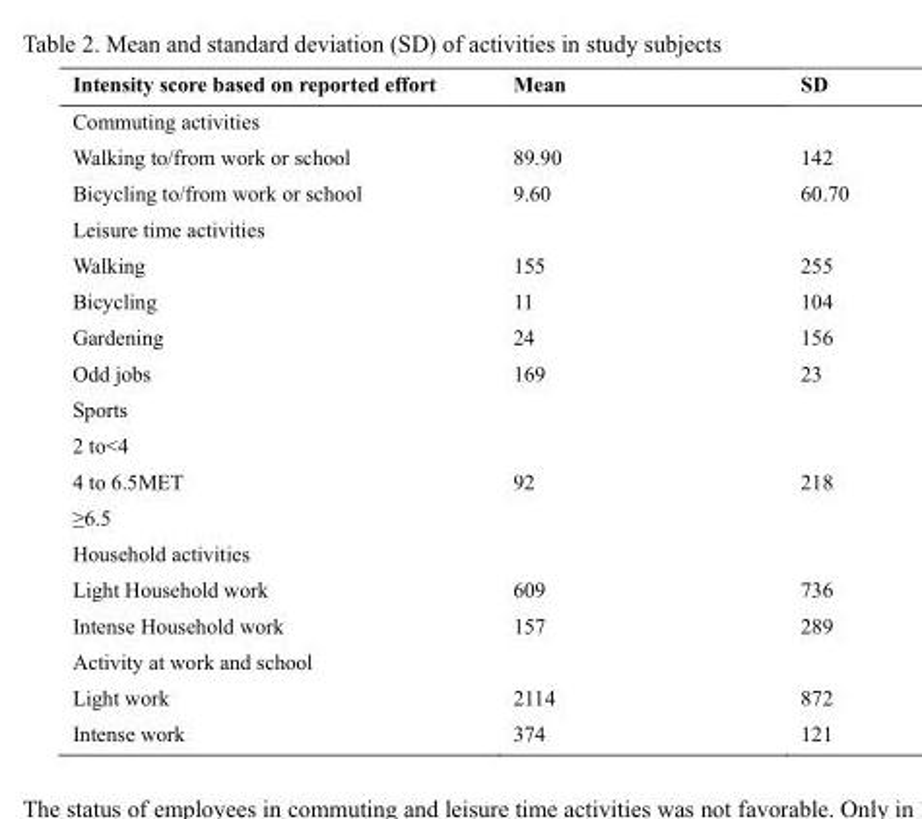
<table><thead><tr><td>Intensity score based on reported effort</td><td>Mean</td><td>SD</td></tr></thead><tbody><tr><td colspan="3">Commuting activities</td></tr><tr><td>Walking to/from work or school</td><td>89.90</td><td>142</td></tr><tr><td>Bicycling to/from work or school</td><td>9.60</td><td>60.70</td></tr><tr><td colspan="3">Leisure time activities</td></tr><tr><td>Walking</td><td>155</td><td>255</td></tr><tr><td>Bicycling</td><td>11</td><td>104</td></tr><tr><td>Gardening</td><td>24</td><td>156</td></tr><tr><td>Odd jobs</td><td>169</td><td>23</td></tr><tr><td colspan="3">Sports</td></tr><tr><td colspan="3">2 to&lt;4</td></tr><tr><td>4 to 6.5MET</td><td>92</td><td>218</td></tr><tr><td colspan="3">≥6.5</td></tr><tr><td colspan="3">Household activities</td></tr><tr><td>Light Household work</td><td>609</td><td>736</td></tr><tr><td>Intense Household work</td><td>157</td><td>289</td></tr><tr><td colspan="3">Activity at work and school</td></tr><tr><td>Light work</td><td>2114</td><td>872</td></tr><tr><td>Intense work</td><td>374</td><td>121</td></tr></tbody></table>